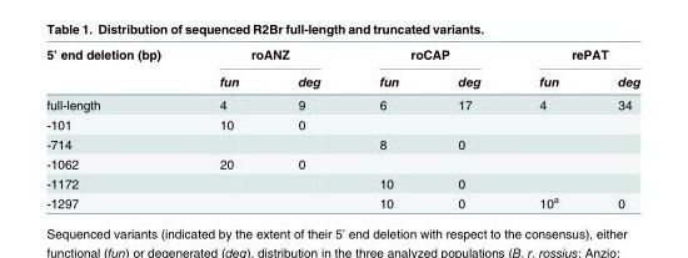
<table><thead><tr><td rowspan="2">5’ end deletion (bp)</td><td colspan="2">roANZ</td><td colspan="2">roCAP</td><td colspan="2">rePAT</td></tr><tr><td>fun</td><td>deg</td><td>fun</td><td>deg</td><td>fun</td><td>deg</td></tr></thead><tbody><tr><td>full-length</td><td>4</td><td>9</td><td>6</td><td>17</td><td>4</td><td>34</td></tr><tr><td>-101</td><td>10</td><td>0</td><td></td><td></td><td></td><td></td></tr><tr><td>-714</td><td></td><td></td><td>8</td><td>0</td><td></td><td></td></tr><tr><td>-1062</td><td>20</td><td>0</td><td></td><td></td><td></td><td></td></tr><tr><td>-1172</td><td></td><td></td><td>10</td><td>0</td><td></td><td></td></tr><tr><td>-1297</td><td></td><td></td><td>10</td><td>0</td><td>10<sup>a</sup></td><td>0</td></tr></tbody></table>